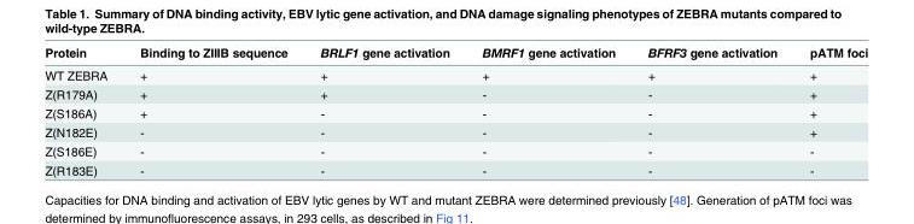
<table><thead><tr><td>Protein</td><td>Binding to ZIIIB sequence</td><td>BRLF1 gene activation</td><td>BMRF1 gene activation</td><td>BFRF3 gene activation</td><td>pATM foci</td></tr></thead><tbody><tr><td>WT ZEBRA</td><td>+</td><td>+</td><td>+</td><td>+</td><td>+</td></tr><tr><td>Z(R179A)</td><td>+</td><td>+</td><td>-</td><td>-</td><td>+</td></tr><tr><td>Z(S186A)</td><td>+</td><td>-</td><td>-</td><td>-</td><td>+</td></tr><tr><td>Z(N182E)</td><td>-</td><td>-</td><td>-</td><td>-</td><td>+</td></tr><tr><td>Z(S186E)</td><td>-</td><td>-</td><td>-</td><td>-</td><td>-</td></tr><tr><td>Z(R183E)</td><td>-</td><td>-</td><td>-</td><td>-</td><td>-</td></tr></tbody></table>